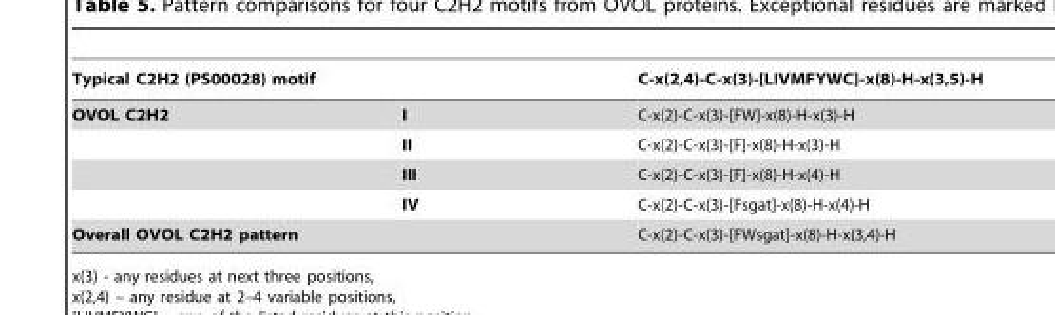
<table><thead><tr><td colspan="2">Typical C2H2 (PS00028) motif</td><td rowspan="2">C-x(2,4)-C-x(3)-[LIVMFYWC]-x(8)-H-x(3,5)-H C-x(2)-C-x(3)-[FW]-x(8)-H-x(3)-H</td></tr><tr><td>OVOL C2H2</td><td>I</td></tr></thead><tbody><tr><td></td><td>II</td><td>C-x(2)-C-x(3)-[F]-x(8)-H-x(3)-H</td></tr><tr><td></td><td>III</td><td>C-x(2)-C-x(3)-[F]-x(8)-H-x(4)-H</td></tr><tr><td></td><td>IV</td><td>C-x(2)-C-x(3)-[Fsgat]-x(8)-H-x(4)-H</td></tr><tr><td colspan="2">Overall OVOL C2H2 pattern</td><td>C-x(2)-C-x(3)-[FWsgat]-x(8)-H-x(3,4)-H</td></tr></tbody></table>